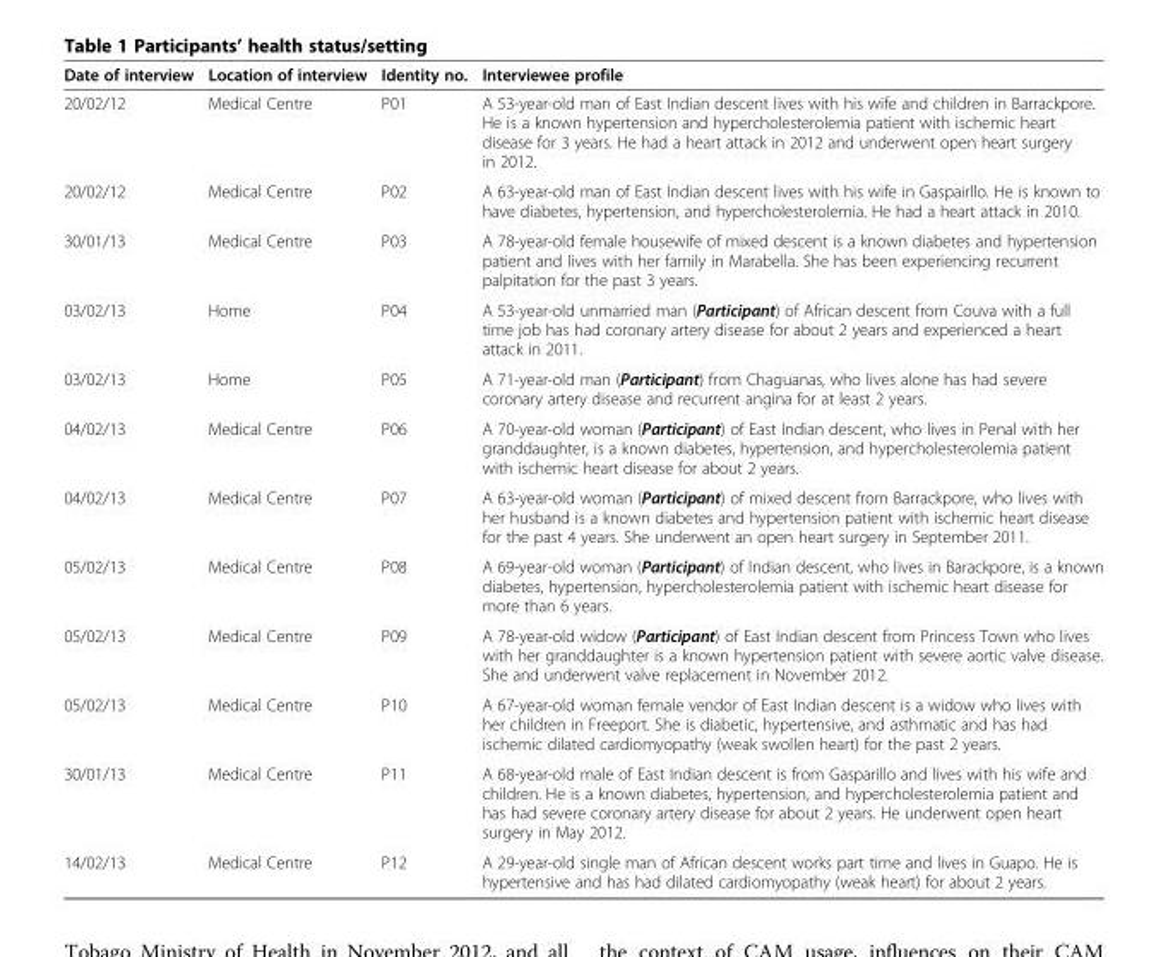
<table><thead><tr><td>Date of interview</td><td>Location of interview</td><td>Identity no.</td><td>Interviewee profile</td></tr></thead><tbody><tr><td>20/02/12</td><td>Medical Centre</td><td>P01</td><td>A 53-year-old man of East Indian descent lives with his wife and children in Barrackpore. He is a known hypertension and hypercholesterolemia patient with ischemic heart disease for 3 years. He had a heart attack in 2012 and underwent open heart surgery in 2012.</td></tr><tr><td>20/02/12</td><td>Medical Centre</td><td>P02</td><td>A 63-year-old man of East Indian descent lives with his wife in Gaspairllo. He is known to have diabetes, hypertension, and hypercholesterolemia. He had a heart attack in 2010.</td></tr><tr><td>30/01/13</td><td>Medical Centre</td><td>P03</td><td>A 78-year-old female housewife of mixed descent is a known diabetes and hypertension patient and lives with her family in Marabella. She has been experiencing recurrent palpitation for the past 3 years.</td></tr><tr><td>03/02/13</td><td>Home</td><td>P04</td><td>A 53-year-old unmarried man (Participant) of African descent from Couva with a full time job has had coronary artery disease for about 2 years and experienced a heart attack in 2011.</td></tr><tr><td>03/02/13</td><td>Home</td><td>P05</td><td>A 71-year-old man (Participant) from Chaguanas, who lives alone has had severe coronary artery disease and recurrent angina for at least 2 years.</td></tr><tr><td>04/02/13</td><td>Medical Centre</td><td>P06</td><td>A 70-year-old woman (Participant) of East Indian descent, who lives in Penal with her granddaughter, is a known diabetes, hypertension, and hypercholesterolemia patient with ischemic heart disease for about 2 years.</td></tr><tr><td>04/02/13</td><td>Medical Centre</td><td>P07</td><td>A 63-year-old woman (Participant) of mixed descent from Barrackpore, who lives with her husband is a known diabetes and hypertension patient with ischemic heart disease for the past 4 years. She underwent an open heart surgery in September 2011.</td></tr><tr><td>05/02/13</td><td>Medical Centre</td><td>P08</td><td>A 69-year-old woman (Participant) of Indian descent, who lives in Barackpore, is a known diabetes, hypertension, hypercholesterolemia patient with ischemic heart disease for more than 6 years.</td></tr><tr><td>05/02/13</td><td>Medical Centre</td><td>P09</td><td>A 78-year-old widow (Participant) of East Indian descent from Princess Town who lives with her granddaughter is a known hypertension patient with severe aortic valve disease. She and underwent valve replacement in November 2012.</td></tr><tr><td>05/02/13</td><td>Medical Centre</td><td>P10</td><td>A 67-year-old woman female vendor of East Indian descent is a widow who lives with her children in Freeport. She is diabetic, hypertensive, and asthmatic and has had ischemic dilated cardiomyopathy (weak swollen heart) for the past 2 years.</td></tr><tr><td>30/01/13</td><td>Medical Centre</td><td>P11</td><td>A 68-year-old male of East Indian descent is from Gasparillo and lives with his wife and children. He is a known diabetes, hypertension, and hypercholesterolemia patient and has had severe coronary artery disease for about 2 years. He underwent open heart surgery in May 2012.</td></tr><tr><td>14/02/13</td><td>Medical Centre</td><td>P12</td><td>A 29-year-old single man of African descent works part time and lives in Guapo. He is hypertensive and has had dilated cardiomyopathy (weak heart) for about 2 years.</td></tr></tbody></table>